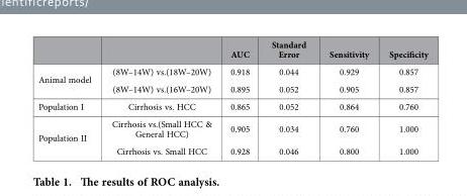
<table><thead><tr><td></td><td></td><td>AUC</td><td>Standard Error</td><td>Sensitivity</td><td>Specificity</td></tr></thead><tbody><tr><td rowspan="2">Animal model</td><td>(8W–14W) vs.(18W–20W)</td><td>0.918</td><td>0.044</td><td>0.929</td><td>0.857</td></tr><tr><td>(8W–14W) vs.(16W–20W)</td><td>0.895</td><td>0.052</td><td>0.905</td><td>0.857</td></tr><tr><td>Population I</td><td>Cirrhosis vs. HCC</td><td>0.865</td><td>0.052</td><td>0.864</td><td>0.760</td></tr><tr><td rowspan="2">Population II</td><td>Cirrhosis vs.(Small HCC &amp; General HCC)</td><td>0.905</td><td>0.034</td><td>0.760</td><td>1.000</td></tr><tr><td>Cirrhosis vs. Small HCC</td><td>0.928</td><td>0.046</td><td>0.800</td><td>1.000</td></tr></tbody></table>